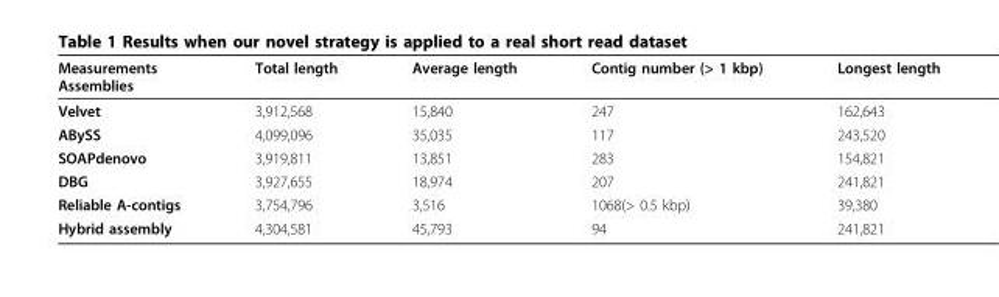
<table><thead><tr><td>Measurements Assemblies</td><td>Total length</td><td>Average length</td><td>Contig number (&gt; 1 kbp)</td><td>Longest length</td></tr></thead><tbody><tr><td>Velvet</td><td>3,912,568</td><td>15,840</td><td>247</td><td>162,643</td></tr><tr><td>ABySS</td><td>4,099,096</td><td>35,035</td><td>117</td><td>243,520</td></tr><tr><td>SOAPdenovo</td><td>3,919,811</td><td>13,851</td><td>283</td><td>154,821</td></tr><tr><td>DBG</td><td>3,927,655</td><td>18,974</td><td>207</td><td>241,821</td></tr><tr><td>Reliable A-contigs</td><td>3,754,796</td><td>3,516</td><td>1068(&gt; 0.5 kbp)</td><td>39,380</td></tr><tr><td>Hybrid assembly</td><td>4,304,581</td><td>45,793</td><td>94</td><td>241,821</td></tr></tbody></table>